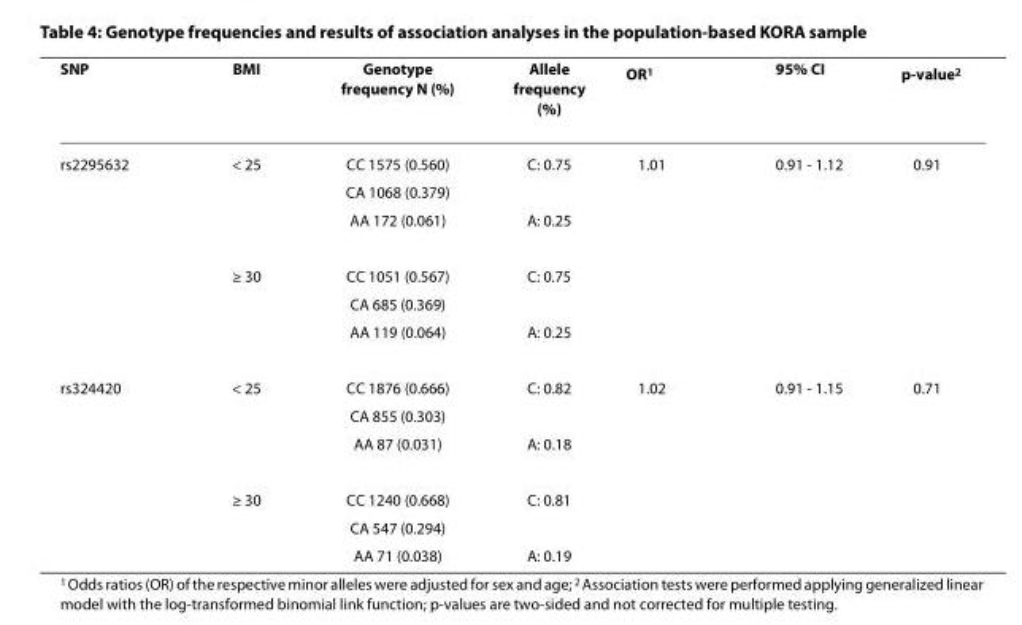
<table><thead><tr><td>SNP</td><td>BMI</td><td>Genotype frequency N (%)</td><td>Allele frequency (%)</td><td>OR<sup>1</sup></td><td>95% CI</td><td>p-value<sup>2</sup></td></tr></thead><tbody><tr><td rowspan="6">rs2295632</td><td>&lt; 25</td><td>CC 1575 (0.560)</td><td>C: 0.75</td><td>1.01</td><td>0.91 - 1.12</td><td>0.91</td></tr><tr><td></td><td>CA 1068 (0.379)</td><td></td><td></td><td></td><td></td></tr><tr><td></td><td>AA 172 (0.061)</td><td>A: 0.25</td><td></td><td></td><td></td></tr><tr><td>≥ 30</td><td>CC 1051 (0.567)</td><td>C: 0.75</td><td></td><td></td><td></td></tr><tr><td></td><td>CA 685 (0.369)</td><td></td><td></td><td></td><td></td></tr><tr><td></td><td>AA 119 (0.064)</td><td>A: 0.25</td><td></td><td></td><td></td></tr><tr><td rowspan="6">rs324420</td><td>&lt; 25</td><td>CC 1876 (0.666)</td><td>C: 0.82</td><td>1.02</td><td>0.91 - 1.15</td><td>0.71</td></tr><tr><td></td><td>CA 855 (0.303)</td><td></td><td></td><td></td><td></td></tr><tr><td></td><td>AA 87 (0.031)</td><td>A: 0.18</td><td></td><td></td><td></td></tr><tr><td>≥ 30</td><td>CC 1240 (0.668)</td><td>C: 0.81</td><td></td><td></td><td></td></tr><tr><td></td><td>CA 547 (0.294)</td><td></td><td></td><td></td><td></td></tr><tr><td></td><td>AA 71 (0.038)</td><td>A: 0.19</td><td></td><td></td><td></td></tr></tbody></table>